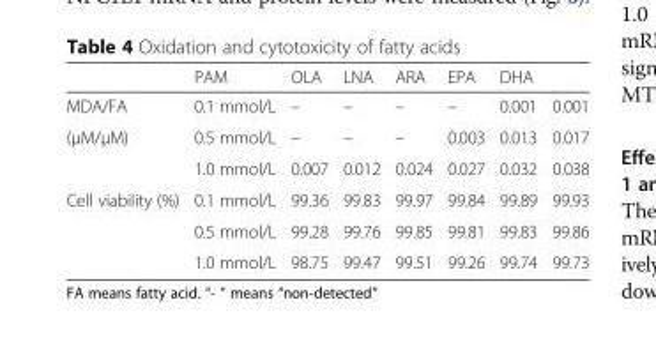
<table><thead><tr><td></td><td>PAM</td><td>OLA</td><td>LNA</td><td>ARA</td><td>EPA</td><td>DHA</td><td></td></tr></thead><tbody><tr><td>MDA/FA</td><td>0.1 mmol/L</td><td>–</td><td>–</td><td>–</td><td>–</td><td>0.001</td><td>0.001</td></tr><tr><td rowspan="2">(μM/μM)</td><td>0.5 mmol/L</td><td>–</td><td>–</td><td>–</td><td>0.003</td><td>0.013</td><td>0.017</td></tr><tr><td>1.0 mmol/L</td><td>0.007</td><td>0.012</td><td>0.024</td><td>0.027</td><td>0.032</td><td>0.038</td></tr><tr><td rowspan="3">Cell viability (%)</td><td>0.1 mmol/L</td><td>99.36</td><td>99.83</td><td>99.97</td><td>99.84</td><td>99.89</td><td>99.93</td></tr><tr><td>0.5 mmol/L</td><td>99.28</td><td>99.76</td><td>99.85</td><td>99.81</td><td>99.83</td><td>99.86</td></tr><tr><td>1.0 mmol/L</td><td>98.75</td><td>99.47</td><td>99.51</td><td>99.26</td><td>99.74</td><td>99.73</td></tr></tbody></table>